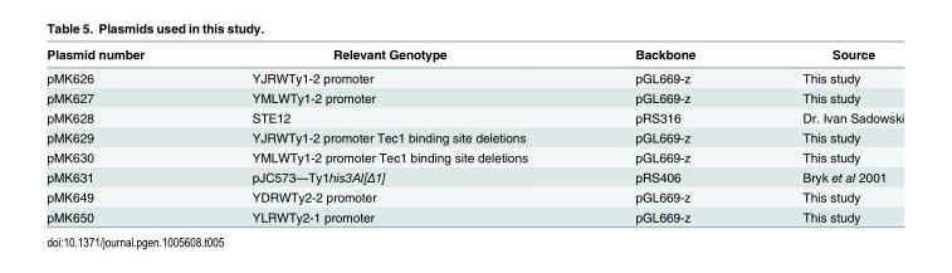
<table><thead><tr><td>Plasmid number</td><td>Relevant Genotype</td><td>Backbone</td><td>Source</td></tr></thead><tbody><tr><td>pMK626</td><td>YJRWTy1-2 promoter</td><td>pGL669-z</td><td>This study</td></tr><tr><td>pMK627</td><td>YMLWTy1-2 promoter</td><td>pGL669-z</td><td>This study</td></tr><tr><td>pMK628</td><td>STE12</td><td>pRS316</td><td>Dr. Ivan Sadowski</td></tr><tr><td>pMK629</td><td>YJRWTy1-2 promoter Tec1 binding site deletions</td><td>pGL669-z</td><td>This study</td></tr><tr><td>pMK630</td><td>YMLWTy1-2 promoter Tec1 binding site deletions</td><td>pGL669-z</td><td>This study</td></tr><tr><td>pMK631</td><td>pJC573—Ty1his3AI[Δ1]</td><td>pRS406</td><td>Bryk et al 2001</td></tr><tr><td>pMK649</td><td>YDRWTy2-2 promoter</td><td>pGL669-z</td><td>This study</td></tr><tr><td>pMK650</td><td>YLRWTy2-1 promoter</td><td>pGL669-z</td><td>This study</td></tr></tbody></table>